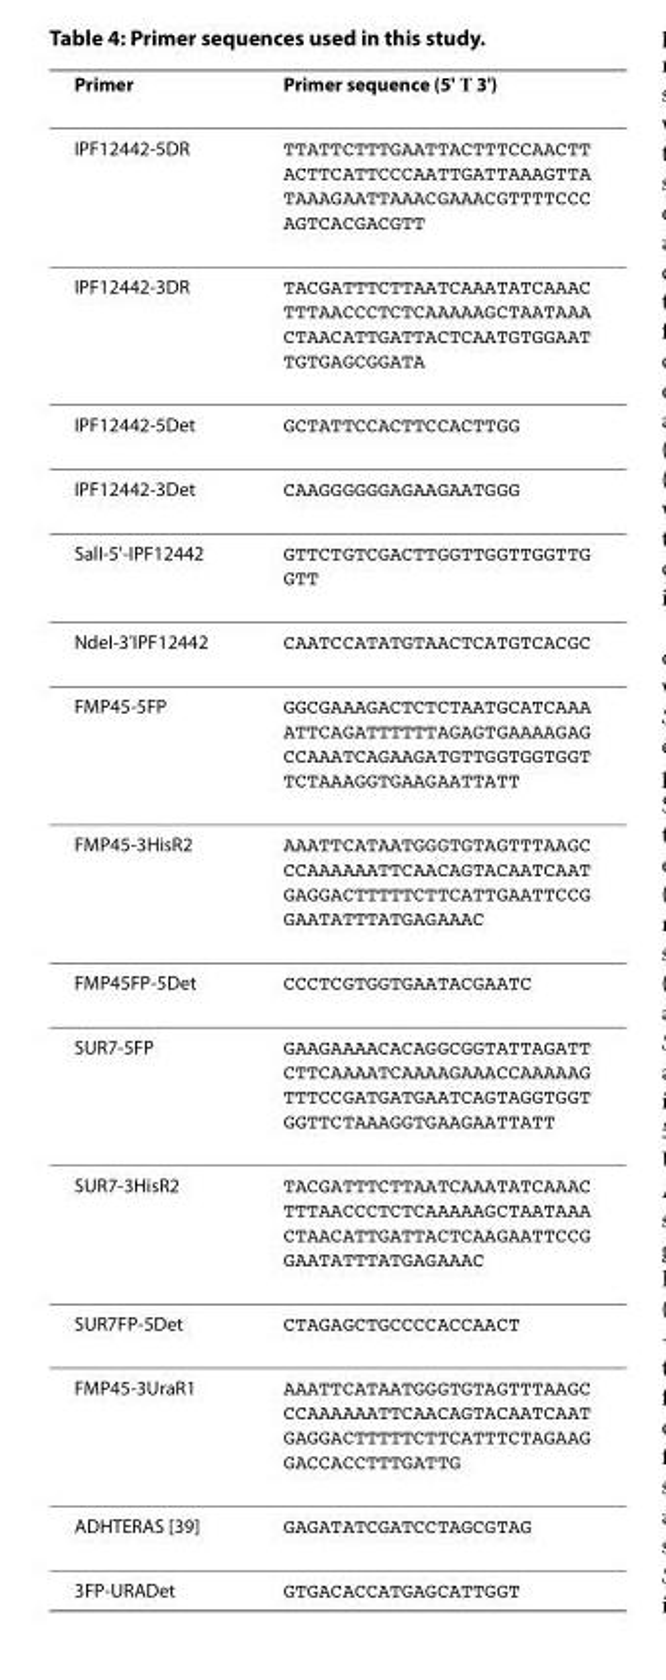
<table><thead><tr><td>Primer</td><td>Primer sequence (5&#x27; → 3&#x27;)</td></tr></thead><tbody><tr><td>IPF12442-5DR</td><td>TTATTCTTTGAATTACTTTCCAACTT ACTTCATTCCCAATTGATTAAAGTTA TAAAGAATTAAACGAAACGTTTTCCC AGTCACGACGTT</td></tr><tr><td>IPF12442-3DR</td><td>TACGATTTCTTAATCAAATATCAAAC TTTAACCCTCTCAAAAAGCTAATAAA CTAACATTGATTACTCAATGTGGAAT TGTGAGCGGATA</td></tr><tr><td>IPF12442-5Det</td><td>GCTATTCCACTTCCACTTGG</td></tr><tr><td>IPF12442-3Det</td><td>CAAGGGGGGAGAAGAATGGG</td></tr><tr><td>SalI-5&#x27;-IPF12442</td><td>GTTCTGTCGACTTGGTTGGTTGGTTG GTT</td></tr><tr><td>NdeI-3&#x27;IPF12442</td><td>CAATCCATATGTAACTCATGTCACGC</td></tr><tr><td>FMP45-5FP</td><td>GGCGAAAGACTCTCTAATGCATCAAA ATTCAGATTTTTTAGAGTGAAAAGAG CCAAATCAGAAGATGTTGGTGGTGGT TCTAAAGGTGAAGAATTATT</td></tr><tr><td>FMP45-3HisR2</td><td>AAATTCATAATGGGTGTAGTTTAAGC CCAAAAAATTCAACAGTACAATCAAT GAGGACTTTTTCTTCATTGAATTCCG GAATATTTATGAGAAAC</td></tr><tr><td>FMP45FP-5Det</td><td>CCCTCGTGGTGAATACGAATC</td></tr><tr><td>SUR7-5FP</td><td>GAAGAAAACACAGGCGGTATTAGATT CTTCAAAATCAAAAGAAACCAAAAAG TTTCCGATGATGAATCAGTAGGTGGT GGTTCTAAAGGTGAAGAATTATT</td></tr><tr><td>SUR7-3HisR2</td><td>TACGATTTCTTAATCAAATATCAAAC TTTAACCCTCTCAAAAAGCTAATAAA CTAACATTGATTACTCAAGAATTCCG GAATATTTATGAGAAAC</td></tr><tr><td>SUR7FP-5Det</td><td>CTAGAGCTGCCCCACCAACT</td></tr><tr><td>FMP45-3UraR1</td><td>AAATTCATAATGGGTGTAGTTTAAGC CCAAAAAATTCAACAGTACAATCAAT GAGGACTTTTTCTTCATTTCTAGAAG GACCACCTTTGATTG</td></tr><tr><td>ADHTERAS [39]</td><td>GAGATATCGATCCTAGCGTAG</td></tr><tr><td>3FP-URADet</td><td>GTGACACCATGAGCATTGGT</td></tr></tbody></table>